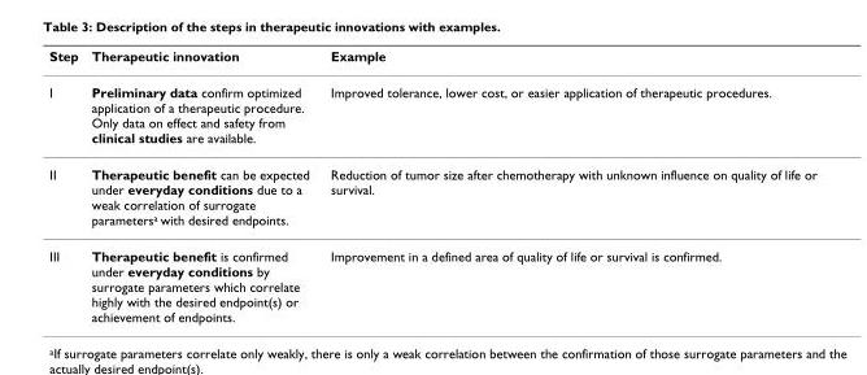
<table><thead><tr><td>Step</td><td>Therapeutic innovation</td><td>Example</td></tr></thead><tbody><tr><td>I</td><td>Preliminary data confirm optimized application of a therapeutic procedure. Only data on effect and safety from clinical studies are available.</td><td>Improved tolerance, lower cost, or easier application of therapeutic procedures.</td></tr><tr><td>II</td><td>Therapeutic benefit can be expected under everyday conditions due to a weak correlation of surrogate parameters<sup>a</sup> with desired endpoints.</td><td>Reduction of tumor size after chemotherapy with unknown influence on quality of life or survival.</td></tr><tr><td>III</td><td>Therapeutic benefit is confirmed under everyday conditions by surrogate parameters which correlate highly with the desired endpoint(s) or achievement of endpoints.</td><td>Improvement in a defined area of quality of life or survival is confirmed.</td></tr></tbody></table>